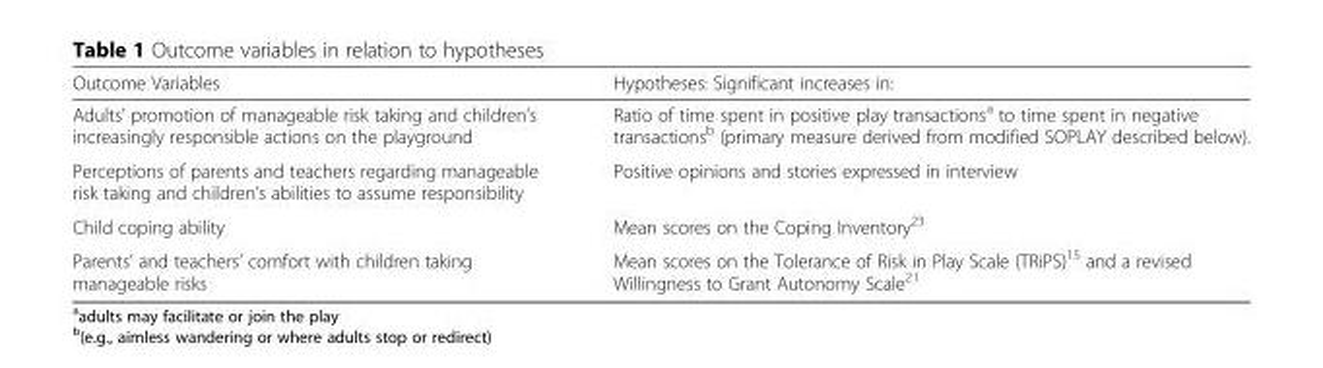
<table><thead><tr><td>Outcome Variables</td><td>Hypotheses: Significant increases in:</td></tr></thead><tbody><tr><td>Adults’ promotion of manageable risk taking and children’s increasingly responsible actions on the playground</td><td>Ratio of time spent in positive play transactions<sup>a</sup> to time spent in negative transactions<sup>b</sup> (primary measure derived from modified SOPLAY described below).</td></tr><tr><td>Perceptions of parents and teachers regarding manageable risk taking and children’s abilities to assume responsibility</td><td>Positive opinions and stories expressed in interview</td></tr><tr><td>Child coping ability</td><td>Mean scores on the Coping Inventory<sup>23</sup></td></tr><tr><td>Parents’ and teachers’ comfort with children taking manageable risks</td><td>Mean scores on the Tolerance of Risk in Play Scale (TRiPS)<sup>15</sup> and a revised Willingness to Grant Autonomy Scale<sup>21</sup></td></tr></tbody></table>